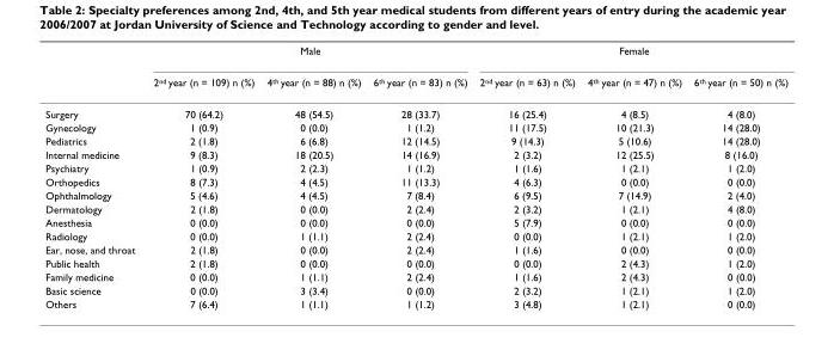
<table><thead><tr><td rowspan="2"></td><td colspan="3">Male</td><td colspan="3">Female</td></tr><tr><td>2<sup>nd</sup> year (n = 109) n (%)</td><td>4<sup>th</sup> year (n = 88) n (%)</td><td>6<sup>th</sup> year (n = 83) n (%)</td><td>2<sup>nd</sup> year (n = 63) n (%)</td><td>4<sup>th</sup> year (n = 47) n (%)</td><td>6<sup>th</sup> year (n = 50) n (%)</td></tr></thead><tbody><tr><td>Surgery</td><td>70 (64.2)</td><td>48 (54.5)</td><td>28 (33.7)</td><td>16 (25.4)</td><td>4 (8.5)</td><td>4 (8.0)</td></tr><tr><td>Gynecology</td><td>1 (0.9)</td><td>0 (0.0)</td><td>1 (1.2)</td><td>11 (17.5)</td><td>10 (21.3)</td><td>14 (28.0)</td></tr><tr><td>Pediatrics</td><td>2 (1.8)</td><td>6 (6.8)</td><td>12 (14.5)</td><td>9 (14.3)</td><td>5 (10.6)</td><td>14 (28.0)</td></tr><tr><td>Internal medicine</td><td>9 (8.3)</td><td>18 (20.5)</td><td>14 (16.9)</td><td>2 (3.2)</td><td>12 (25.5)</td><td>8 (16.0)</td></tr><tr><td>Psychiatry</td><td>1 (0.9)</td><td>2 (2.3)</td><td>1 (1.2)</td><td>1 (1.6)</td><td>1 (2.1)</td><td>1 (2.0)</td></tr><tr><td>Orthopedics</td><td>8 (7.3)</td><td>4 (4.5)</td><td>11 (13.3)</td><td>4 (6.3)</td><td>0 (0.0)</td><td>0 (0.0)</td></tr><tr><td>Ophthalmology</td><td>5 (4.6)</td><td>4 (4.5)</td><td>7 (8.4)</td><td>6 (9.5)</td><td>7 (14.9)</td><td>2 (4.0)</td></tr><tr><td>Dermatology</td><td>2 (1.8)</td><td>0 (0.0)</td><td>2 (2.4)</td><td>2 (3.2)</td><td>1 (2.1)</td><td>4 (8.0)</td></tr><tr><td>Anesthesia</td><td>0 (0.0)</td><td>0 (0.0)</td><td>0 (0.0)</td><td>5 (7.9)</td><td>0 (0.0)</td><td>0 (0.0)</td></tr><tr><td>Radiology</td><td>0 (0.0)</td><td>1 (1.1)</td><td>2 (2.4)</td><td>0 (0.0)</td><td>1 (2.1)</td><td>1 (2.0)</td></tr><tr><td>Ear, nose, and throat</td><td>2 (1.8)</td><td>0 (0.0)</td><td>2 (2.4)</td><td>1 (1.6)</td><td>0 (0.0)</td><td>0 (0.0)</td></tr><tr><td>Public health</td><td>2 (1.8)</td><td>0 (0.0)</td><td>0 (0.0)</td><td>0 (0.0)</td><td>2 (4.3)</td><td>1 (2.0)</td></tr><tr><td>Family medicine</td><td>0 (0.0)</td><td>1 (1.1)</td><td>2 (2.4)</td><td>1 (1.6)</td><td>2 (4.3)</td><td>0 (0.0)</td></tr><tr><td>Basic science</td><td>0 (0.0)</td><td>3 (3.4)</td><td>0 (0.0)</td><td>2 (3.2)</td><td>1 (2.1)</td><td>1 (2.0)</td></tr><tr><td>Others</td><td>7 (6.4)</td><td>1 (1.1)</td><td>1 (1.2)</td><td>3 (4.8)</td><td>1 (2.1)</td><td>0 (0.0)</td></tr></tbody></table>